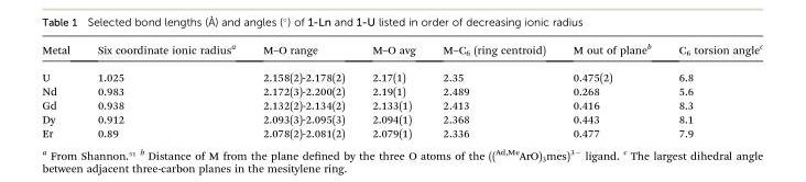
<table><thead><tr><td>Metal</td><td>Six coordinate ionic radius<sup>a</sup></td><td>M–O range</td><td>M–O avg</td><td>M–C<sub>6</sub> (ring centroid)</td><td>M out of plane<sup>b</sup></td><td>C<sub>6</sub> torsion angle<sup>c</sup></td></tr></thead><tbody><tr><td>U</td><td>1.025</td><td>2.158(2)-2.178(2)</td><td>2.17(1)</td><td>2.35</td><td>0.475(2)</td><td>6.8</td></tr><tr><td>Nd</td><td>0.983</td><td>2.172(3)-2.200(2)</td><td>2.19(1)</td><td>2.489</td><td>0.268</td><td>5.6</td></tr><tr><td>Gd</td><td>0.938</td><td>2.132(2)-2.134(2)</td><td>2.133(1)</td><td>2.413</td><td>0.416</td><td>8.3</td></tr><tr><td>Dy</td><td>0.912</td><td>2.093(3)-2.095(3)</td><td>2.094(1)</td><td>2.368</td><td>0.443</td><td>8.1</td></tr><tr><td>Er</td><td>0.89</td><td>2.078(2)-2.081(2)</td><td>2.079(1)</td><td>2.336</td><td>0.477</td><td>7.9</td></tr></tbody></table>